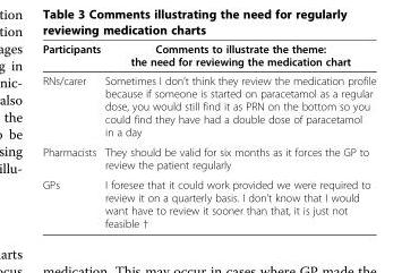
<table><thead><tr><td>Participants</td><td>Comments to illustrate the theme: the need for reviewing the medication chart</td></tr></thead><tbody><tr><td>RNs/carer</td><td>Sometimes I don’t think they review the medication profile because if someone is started on paracetamol as a regular dose, you would still find it as PRN on the bottom so you could find they have had a double dose of paracetamol in a day</td></tr><tr><td>Pharmacists</td><td>They should be valid for six months as it forces the GP to review the patient regularly</td></tr><tr><td>GPs</td><td>I foresee that it could work provided we were required to review it on a quarterly basis. I don’t know that I would want have to review it sooner than that, it is just not feasible †</td></tr></tbody></table>